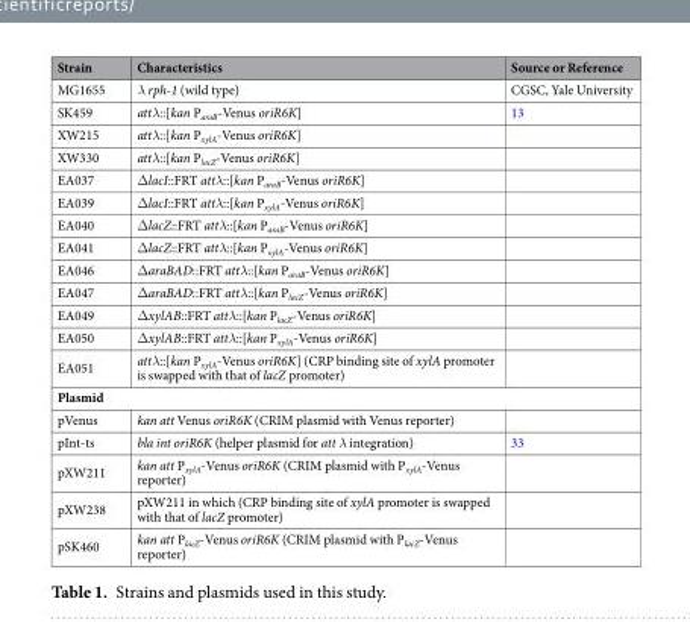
<table><thead><tr><td>Strain</td><td>Characteristics</td><td>Source or Reference</td></tr></thead><tbody><tr><td>MG1655</td><td>λ rph-1 (wild type)</td><td>CGSC, Yale University</td></tr><tr><td>SK459</td><td>attλ::[kan P<sub>araB</sub>-Venus oriR6K]</td><td>13</td></tr><tr><td>XW215</td><td>attλ::[kan P<sub>xylA</sub>-Venus oriR6K]</td><td></td></tr><tr><td>XW330</td><td>attλ::[kan P<sub>lacZ</sub>-Venus oriR6K]</td><td></td></tr><tr><td>EA037</td><td>ΔlacI::FRT attλ::[kan P<sub>araB</sub>-Venus oriR6K]</td><td></td></tr><tr><td>EA039</td><td>ΔlacI::FRT attλ::[kan P<sub>xylA</sub>-Venus oriR6K]</td><td></td></tr><tr><td>EA040</td><td>ΔlacZ::FRT attλ::[kan P<sub>araB</sub>-Venus oriR6K]</td><td></td></tr><tr><td>EA041</td><td>ΔlacZ::FRT attλ::[kan P<sub>xylA</sub>-Venus oriR6K]</td><td></td></tr><tr><td>EA046</td><td>ΔaraBAD::FRT attλ::[kan P<sub>araB</sub>-Venus oriR6K]</td><td></td></tr><tr><td>EA047</td><td>ΔaraBAD::FRT attλ::[kan P<sub>lacZ</sub>-Venus oriR6K]</td><td></td></tr><tr><td>EA049</td><td>ΔxylAB::FRT attλ::[kan P<sub>lacZ</sub>-Venus oriR6K]</td><td></td></tr><tr><td>EA050</td><td>ΔxylAB::FRT attλ::[kan P<sub>xylA</sub>-Venus oriR6K]</td><td></td></tr><tr><td>EA051</td><td>attλ::[kan P<sub>xylA</sub>-Venus oriR6K] (CRP binding site of xylA promoter is swapped with that of lacZ promoter)</td><td></td></tr><tr><td colspan="3">Plasmid</td></tr><tr><td>pVenus</td><td>kan att Venus oriR6K (CRIM plasmid with Venus reporter)</td><td></td></tr><tr><td>pInt-ts</td><td>bla int oriR6K (helper plasmid for att λ integration)</td><td>33</td></tr><tr><td>pXW211</td><td>kan att P<sub>xylA</sub>-Venus oriR6K (CRIM plasmid with P<sub>xylA</sub>-Venus reporter)</td><td></td></tr><tr><td>pXW238</td><td>pXW211 in which (CRP binding site of xylA promoter is swapped with that of lacZ promoter)</td><td></td></tr><tr><td>pSK460</td><td>kan att P<sub>lacZ</sub>-Venus oriR6K (CRIM plasmid with P<sub>lacZ</sub>-Venus reporter)</td><td></td></tr></tbody></table>